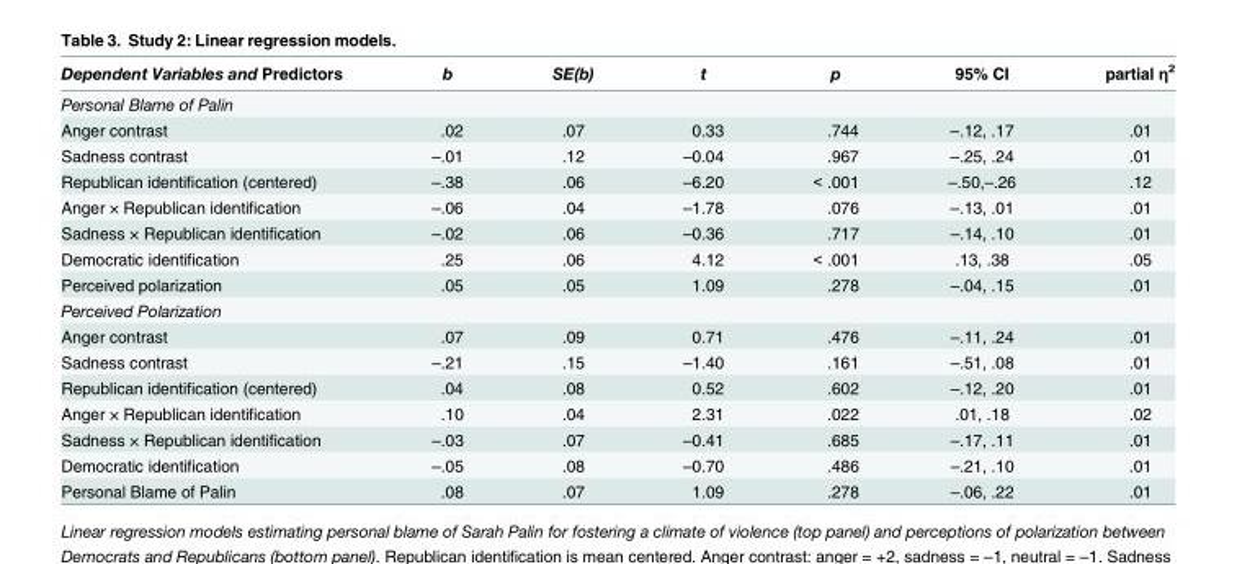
<table><thead><tr><td>Dependent Variables and Predictors</td><td>b</td><td>SE(b)</td><td>t</td><td>p</td><td>95% CI</td><td>partial η<sup>2</sup></td></tr></thead><tbody><tr><td colspan="7">Personal Blame of Palin</td></tr><tr><td>Anger contrast</td><td>.02</td><td>.07</td><td>0.33</td><td>.744</td><td>–.12, .17</td><td>.01</td></tr><tr><td>Sadness contrast</td><td>–.01</td><td>.12</td><td>–0.04</td><td>.967</td><td>–.25, .24</td><td>.01</td></tr><tr><td>Republican identification (centered)</td><td>–.38</td><td>.06</td><td>–6.20</td><td>&lt; .001</td><td>–.50,–.26</td><td>.12</td></tr><tr><td>Anger × Republican identification</td><td>–.06</td><td>.04</td><td>–1.78</td><td>.076</td><td>–.13, .01</td><td>.01</td></tr><tr><td>Sadness × Republican identification</td><td>–.02</td><td>.06</td><td>–0.36</td><td>.717</td><td>–.14, .10</td><td>.01</td></tr><tr><td>Democratic identification</td><td>.25</td><td>.06</td><td>4.12</td><td>&lt; .001</td><td>.13, .38</td><td>.05</td></tr><tr><td>Perceived polarization</td><td>.05</td><td>.05</td><td>1.09</td><td>.278</td><td>–.04, .15</td><td>.01</td></tr><tr><td colspan="7">Perceived Polarization</td></tr><tr><td>Anger contrast</td><td>.07</td><td>.09</td><td>0.71</td><td>.476</td><td>–.11, .24</td><td>.01</td></tr><tr><td>Sadness contrast</td><td>–.21</td><td>.15</td><td>–1.40</td><td>.161</td><td>–.51, .08</td><td>.01</td></tr><tr><td>Republican identification (centered)</td><td>.04</td><td>.08</td><td>0.52</td><td>.602</td><td>–.12, .20</td><td>.01</td></tr><tr><td>Anger × Republican identification</td><td>.10</td><td>.04</td><td>2.31</td><td>.022</td><td>.01, .18</td><td>.02</td></tr><tr><td>Sadness × Republican identification</td><td>–.03</td><td>.07</td><td>–0.41</td><td>.685</td><td>–.17, .11</td><td>.01</td></tr><tr><td>Democratic identification</td><td>–.05</td><td>.08</td><td>–0.70</td><td>.486</td><td>–.21, .10</td><td>.01</td></tr><tr><td>Personal Blame of Palin</td><td>.08</td><td>.07</td><td>1.09</td><td>.278</td><td>–.06, .22</td><td>.01</td></tr></tbody></table>